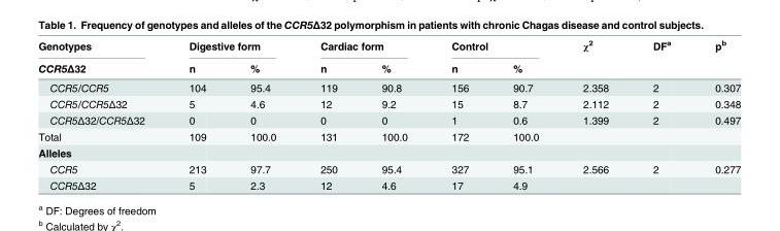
<table><thead><tr><td rowspan="2">Genotypes CCR5Δ32</td><td colspan="2">Digestive form</td><td colspan="2">Cardiac form</td><td colspan="2">Control</td><td rowspan="2">χ<sup>2</sup></td><td rowspan="2">DF<sup>a</sup></td><td rowspan="2">p<sup>b</sup></td></tr><tr><td>n</td><td>%</td><td>n</td><td>%</td><td>n</td><td>%</td></tr></thead><tbody><tr><td>CCR5/CCR5</td><td>104</td><td>95.4</td><td>119</td><td>90.8</td><td>156</td><td>90.7</td><td>2.358</td><td>2</td><td>0.307</td></tr><tr><td>CCR5/CCR5Δ32</td><td>5</td><td>4.6</td><td>12</td><td>9.2</td><td>15</td><td>8.7</td><td>2.112</td><td>2</td><td>0.348</td></tr><tr><td>CCR5Δ32/CCR5Δ32</td><td>0</td><td>0</td><td>0</td><td>0</td><td>1</td><td>0.6</td><td>1.399</td><td>2</td><td>0.497</td></tr><tr><td>Total</td><td>109</td><td>100.0</td><td>131</td><td>100.0</td><td>172</td><td>100.0</td><td></td><td></td><td></td></tr><tr><td colspan="10">Alleles</td></tr><tr><td>CCR5</td><td>213</td><td>97.7</td><td>250</td><td>95.4</td><td>327</td><td>95.1</td><td>2.566</td><td>2</td><td>0.277</td></tr><tr><td>CCR5Δ32</td><td>5</td><td>2.3</td><td>12</td><td>4.6</td><td>17</td><td>4.9</td><td></td><td></td><td></td></tr></tbody></table>